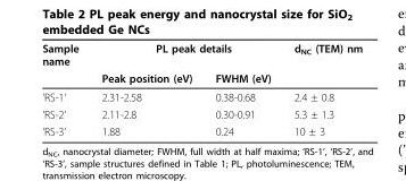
<table><thead><tr><td rowspan="2">Sample name</td><td colspan="2">PL peak details</td><td rowspan="2">d<sub>NC</sub> (TEM) nm</td></tr><tr><td>Peak position (eV)</td><td>FWHM (eV)</td></tr></thead><tbody><tr><td>’RS-1’</td><td>2.31-2.58</td><td>0.38-0.68</td><td>2.4 ± 0.8</td></tr><tr><td>’RS-2’</td><td>2.11-2.8</td><td>0.30-0.91</td><td>5.3 ± 1.3</td></tr><tr><td>’RS-3’</td><td>1.88</td><td>0.24</td><td>10 ± 3</td></tr></tbody></table>